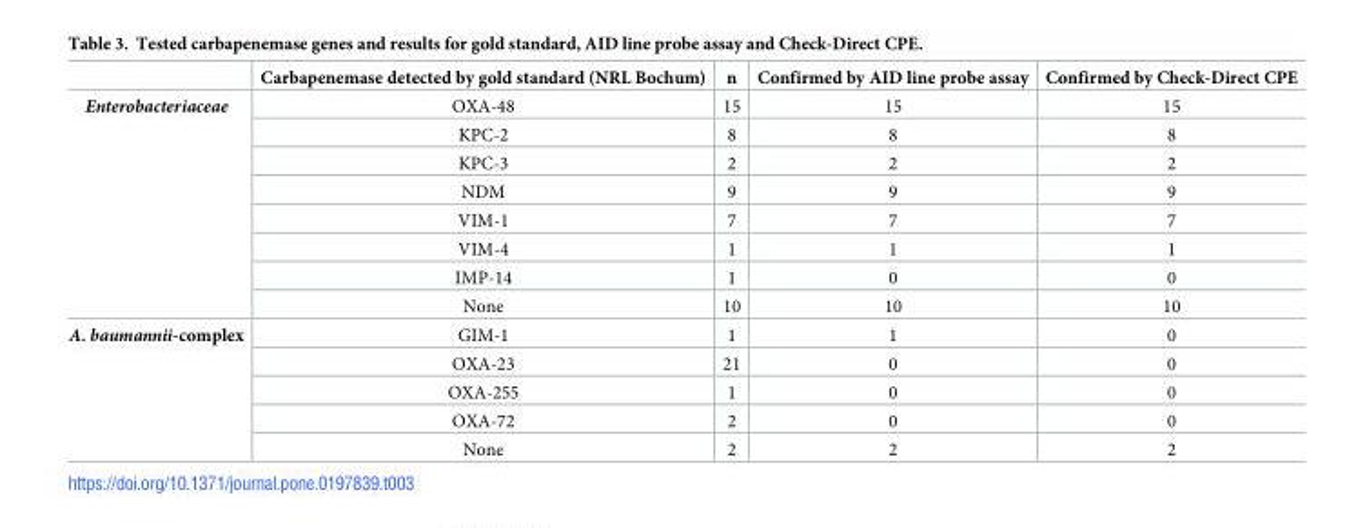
<table><thead><tr><td></td><td>Carbapenemase detected by gold standard (NRL Bochum)</td><td>n</td><td>Confirmed by AID line probe assay</td><td>Confirmed by Check-Direct CPE</td></tr></thead><tbody><tr><td rowspan="8">Enterobacteriaceae</td><td>OXA-48</td><td>15</td><td>15</td><td>15</td></tr><tr><td>KPC-2</td><td>8</td><td>8</td><td>8</td></tr><tr><td>KPC-3</td><td>2</td><td>2</td><td>2</td></tr><tr><td>NDM</td><td>9</td><td>9</td><td>9</td></tr><tr><td>VIM-1</td><td>7</td><td>7</td><td>7</td></tr><tr><td>VIM-4</td><td>1</td><td>1</td><td>1</td></tr><tr><td>IMP-14</td><td>1</td><td>0</td><td>0</td></tr><tr><td>None</td><td>10</td><td>10</td><td>10</td></tr><tr><td rowspan="5">A. baumannii-complex</td><td>GIM-1</td><td>1</td><td>1</td><td>0</td></tr><tr><td>OXA-23</td><td>21</td><td>0</td><td>0</td></tr><tr><td>OXA-255</td><td>1</td><td>0</td><td>0</td></tr><tr><td>OXA-72</td><td>2</td><td>0</td><td>0</td></tr><tr><td>None</td><td>2</td><td>2</td><td>2</td></tr></tbody></table>